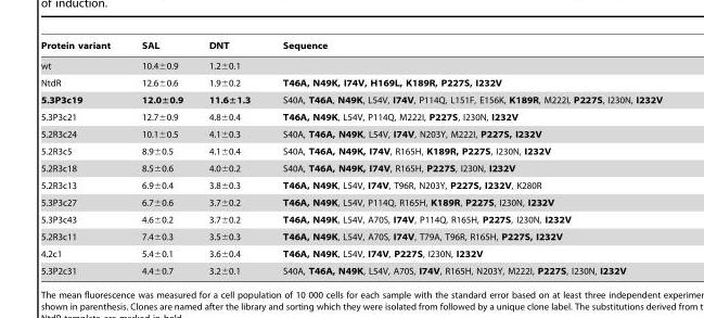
<table><thead><tr><td>Protein variant</td><td>SAL</td><td>DNT</td><td>Sequence</td></tr></thead><tbody><tr><td>wt</td><td>10.4±0.9</td><td>1.2±0.1</td><td></td></tr><tr><td>NtdR</td><td>12.6±0.6</td><td>1.9±0.2</td><td>T46A, N49K, I74V, H169L, K189R, P227S, I232V</td></tr><tr><td>5.3P3c19</td><td>12.0±0.9</td><td>11.6±1.3</td><td>S40A, T46A, N49K, L54V, I74V, P114Q, L151F, E156K, K189R, M222I, P227S, I230N, I232V</td></tr><tr><td>5.3P3c21</td><td>12.7±0.9</td><td>4.8±0.4</td><td>T46A, N49K, L54V, P114Q, M222I, P227S, I230N, I232V</td></tr><tr><td>5.2R3c24</td><td>10.1±0.5</td><td>4.1±0.3</td><td>S40A, T46A, N49K, L54V, I74V, N203Y, M222I, P227S, I232V</td></tr><tr><td>5.2R3c5</td><td>8.9±0.5</td><td>4.1±0.4</td><td>S40A, T46A, N49K, I74V, R165H, K189R, P227S, I230N, I232V</td></tr><tr><td>5.2R3c18</td><td>8.5±0.6</td><td>4.0±0.2</td><td>S40A, T46A, N49K, I74V, R165H, P227S, I230N, I232V</td></tr><tr><td>5.2R3c13</td><td>6.9±0.4</td><td>3.8±0.3</td><td>T46A, N49K, L54V, I74V, T96R, N203Y, P227S, I232V, K280R</td></tr><tr><td>5.3P3c27</td><td>6.7±0.6</td><td>3.7±0.2</td><td>T46A, N49K, L54V, P114Q, R165H, K189R, P227S, I230N, I232V</td></tr><tr><td>5.3P3c43</td><td>4.6±0.2</td><td>3.7±0.2</td><td>T46A, N49K, L54V, A70S, I74V, P114Q, R165H, P227S, I230N, I232V</td></tr><tr><td>5.2R3c11</td><td>7.4±0.3</td><td>3.5±0.3</td><td>T46A, N49K, L54V, A70S, I74V, T79A, T96R, R165H, P227S, I232V</td></tr><tr><td>4.2c1</td><td>5.4±0.1</td><td>3.6±0.4</td><td>T46A, N49K, L54V, I74V, P227S, I230N, I232V</td></tr><tr><td>5.3P2c31</td><td>4.4±0.7</td><td>3.2±0.1</td><td>S40A, T46A, N49K, L54V, A70S, I74V, R165H, N203Y, M222I, P227S, I230N, I232V</td></tr></tbody></table>